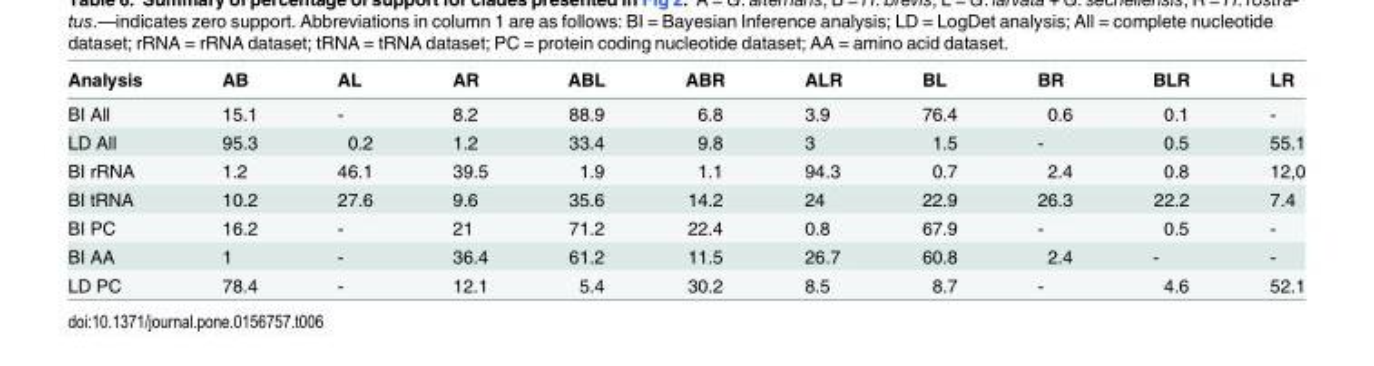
<table><thead><tr><td>Analysis</td><td>AB</td><td>AL</td><td>AR</td><td>ABL</td><td>ABR</td><td>ALR</td><td>BL</td><td>BR</td><td>BLR</td><td>LR</td></tr></thead><tbody><tr><td>BI All</td><td>15.1</td><td>-</td><td>8.2</td><td>88.9</td><td>6.8</td><td>3.9</td><td>76.4</td><td>0.6</td><td>0.1</td><td>-</td></tr><tr><td>LD All</td><td>95.3</td><td>0.2</td><td>1.2</td><td>33.4</td><td>9.8</td><td>3</td><td>1.5</td><td>-</td><td>0.5</td><td>55.1</td></tr><tr><td>BI rRNA</td><td>1.2</td><td>46.1</td><td>39.5</td><td>1.9</td><td>1.1</td><td>94.3</td><td>0.7</td><td>2.4</td><td>0.8</td><td>12,0</td></tr><tr><td>BI tRNA</td><td>10.2</td><td>27.6</td><td>9.6</td><td>35.6</td><td>14.2</td><td>24</td><td>22.9</td><td>26.3</td><td>22.2</td><td>7.4</td></tr><tr><td>BI PC</td><td>16.2</td><td>-</td><td>21</td><td>71.2</td><td>22.4</td><td>0.8</td><td>67.9</td><td>-</td><td>0.5</td><td>-</td></tr><tr><td>BI AA</td><td>1</td><td>-</td><td>36.4</td><td>61.2</td><td>11.5</td><td>26.7</td><td>60.8</td><td>2.4</td><td>-</td><td>-</td></tr><tr><td>LD PC</td><td>78.4</td><td>-</td><td>12.1</td><td>5.4</td><td>30.2</td><td>8.5</td><td>8.7</td><td>-</td><td>4.6</td><td>52.1</td></tr></tbody></table>